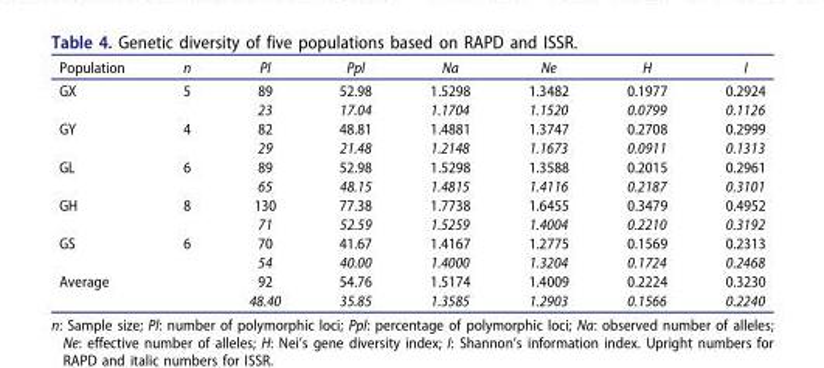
<table><thead><tr><td>Population</td><td>n</td><td>Pl</td><td>Ppl</td><td>Na</td><td>Ne</td><td>H</td><td>I</td></tr></thead><tbody><tr><td rowspan="2">GX</td><td rowspan="2">5</td><td>89</td><td>52.98</td><td>1.5298</td><td>1.3482</td><td>0.1977</td><td>0.2924</td></tr><tr><td>23</td><td>17.04</td><td>1.1704</td><td>1.1520</td><td>0.0799</td><td>0.1126</td></tr><tr><td rowspan="2">GY</td><td rowspan="2">4</td><td>82</td><td>48.81</td><td>1.4881</td><td>1.3747</td><td>0.2708</td><td>0.2999</td></tr><tr><td>29</td><td>21.48</td><td>1.2148</td><td>1.1673</td><td>0.0911</td><td>0.1313</td></tr><tr><td rowspan="2">GL</td><td rowspan="2">6</td><td>89</td><td>52.98</td><td>1.5298</td><td>1.3588</td><td>0.2015</td><td>0.2961</td></tr><tr><td>65</td><td>48.15</td><td>1.4815</td><td>1.4116</td><td>0.2187</td><td>0.3101</td></tr><tr><td rowspan="2">GH</td><td rowspan="2">8</td><td>130</td><td>77.38</td><td>1.7738</td><td>1.6455</td><td>0.3479</td><td>0.4952</td></tr><tr><td>71</td><td>52.59</td><td>1.5259</td><td>1.4004</td><td>0.2210</td><td>0.3192</td></tr><tr><td rowspan="2">GS</td><td rowspan="2">6</td><td>70</td><td>41.67</td><td>1.4167</td><td>1.2775</td><td>0.1569</td><td>0.2313</td></tr><tr><td>54</td><td>40.00</td><td>1.4000</td><td>1.3204</td><td>0.1724</td><td>0.2468</td></tr><tr><td rowspan="2">Average</td><td rowspan="2"></td><td>92</td><td>54.76</td><td>1.5174</td><td>1.4009</td><td>0.2224</td><td>0.3230</td></tr><tr><td>48.40</td><td>35.85</td><td>1.3585</td><td>1.2903</td><td>0.1566</td><td>0.2240</td></tr></tbody></table>